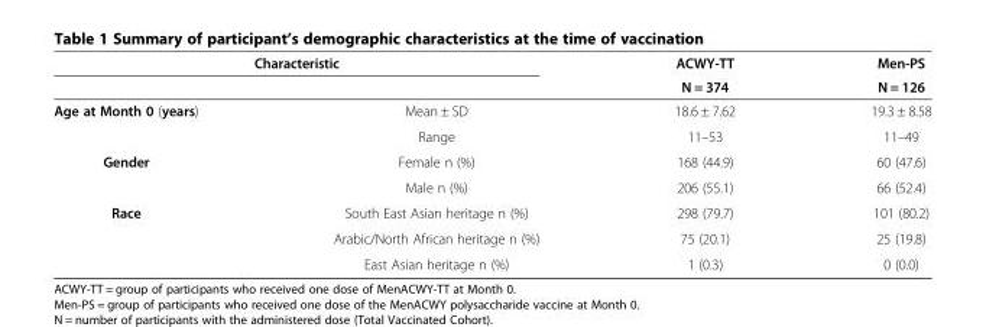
<table><thead><tr><td colspan="2">Characteristic</td><td rowspan="2">ACWY-TT N = 374</td><td rowspan="2">Men-PS N = 126</td></tr><tr><td></td><td></td></tr></thead><tbody><tr><td rowspan="2">Age at Month 0 (years)</td><td>Mean ± SD</td><td>18.6 ± 7.62</td><td>19.3 ± 8.58</td></tr><tr><td>Range</td><td>11–53</td><td>11–49</td></tr><tr><td rowspan="2">Gender</td><td>Female n (%)</td><td>168 (44.9)</td><td>60 (47.6)</td></tr><tr><td>Male n (%)</td><td>206 (55.1)</td><td>66 (52.4)</td></tr><tr><td rowspan="3">Race</td><td>South East Asian heritage n (%)</td><td>298 (79.7)</td><td>101 (80.2)</td></tr><tr><td>Arabic/North African heritage n (%)</td><td>75 (20.1)</td><td>25 (19.8)</td></tr><tr><td>East Asian heritage n (%)</td><td>1 (0.3)</td><td>0 (0.0)</td></tr></tbody></table>